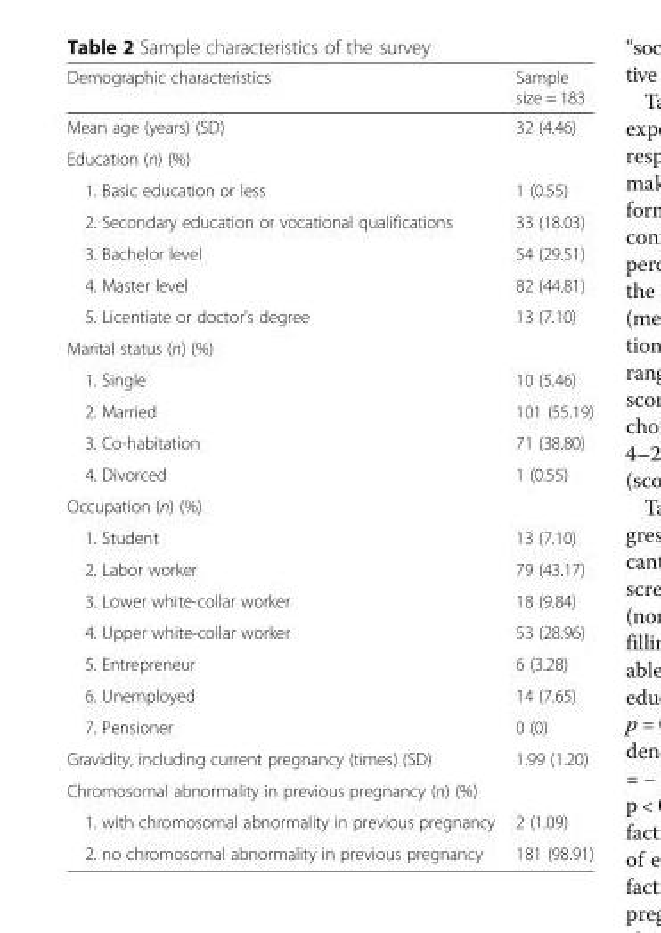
<table><thead><tr><td>Demographic characteristics</td><td>Sample size = 183</td></tr></thead><tbody><tr><td>Mean age (years) (SD)</td><td>32 (4.46)</td></tr><tr><td colspan="2">Education (n) (%)</td></tr><tr><td>1. Basic education or less</td><td>1 (0.55)</td></tr><tr><td>2. Secondary education or vocational qualifications</td><td>33 (18.03)</td></tr><tr><td>3. Bachelor level</td><td>54 (29.51)</td></tr><tr><td>4. Master level</td><td>82 (44.81)</td></tr><tr><td>5. Licentiate or doctor’s degree</td><td>13 (7.10)</td></tr><tr><td colspan="2">Marital status (n) (%)</td></tr><tr><td>1. Single</td><td>10 (5.46)</td></tr><tr><td>2. Married</td><td>101 (55.19)</td></tr><tr><td>3. Co-habitation</td><td>71 (38.80)</td></tr><tr><td>4. Divorced</td><td>1 (0.55)</td></tr><tr><td colspan="2">Occupation (n) (%)</td></tr><tr><td>1. Student</td><td>13 (7.10)</td></tr><tr><td>2. Labor worker</td><td>79 (43.17)</td></tr><tr><td>3. Lower white-collar worker</td><td>18 (9.84)</td></tr><tr><td>4. Upper white-collar worker</td><td>53 (28.96)</td></tr><tr><td>5. Entrepreneur</td><td>6 (3.28)</td></tr><tr><td>6. Unemployed</td><td>14 (7.65)</td></tr><tr><td>7. Pensioner</td><td>0 (0)</td></tr><tr><td>Gravidity, including current pregnancy (times) (SD)</td><td>1.99 (1.20)</td></tr><tr><td colspan="2">Chromosomal abnormality in previous pregnancy (n) (%)</td></tr><tr><td>1. with chromosomal abnormality in previous pregnancy</td><td>2 (1.09)</td></tr><tr><td>2. no chromosomal abnormality in previous pregnancy</td><td>181 (98.91)</td></tr></tbody></table>